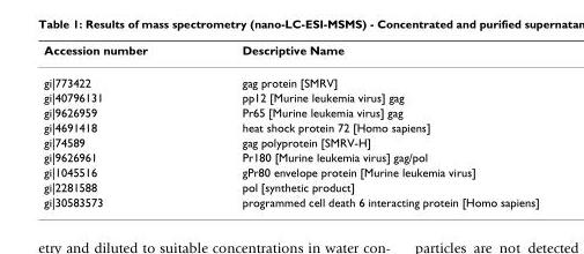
<table><thead><tr><td>Accession number</td><td>Descriptive Name</td></tr></thead><tbody><tr><td>gi|773422</td><td>gag protein [SMRV]</td></tr><tr><td>gi|40796131</td><td>pp12 [Murine leukemia virus] gag</td></tr><tr><td>gi|9626959</td><td>Pr65 [Murine leukemia virus] gag</td></tr><tr><td>gi|4691418</td><td>heat shock protein 72 [Homo sapiens]</td></tr><tr><td>gi|74589</td><td>gag polyprotein [SMRV-H]</td></tr><tr><td>gi|9626961</td><td>Pr180 [Murine leukemia virus] gag/pol</td></tr><tr><td>gi|1045516</td><td>gPr80 envelope protein [Murine leukemia virus]</td></tr><tr><td>gi|2281588</td><td>pol [synthetic product]</td></tr><tr><td>gi|30583573</td><td>programmed cell death 6 interacting protein [Homo sapiens]</td></tr></tbody></table>